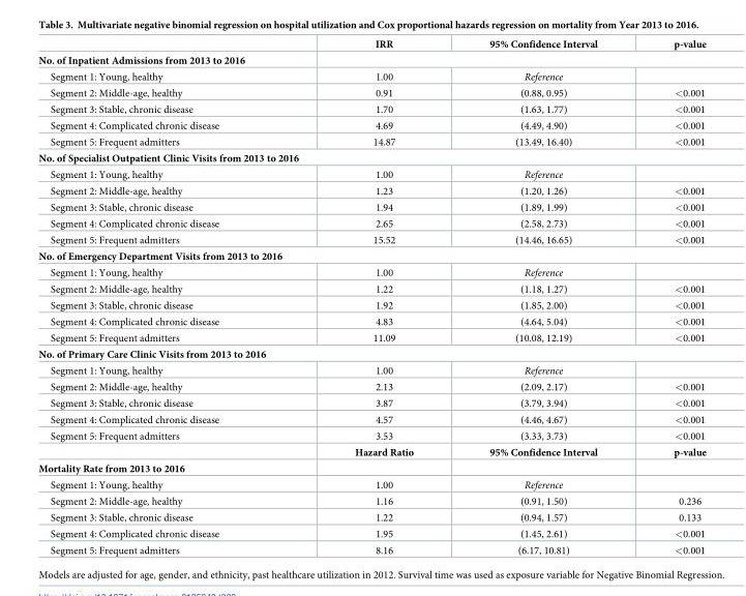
<table><thead><tr><td></td><td>IRR</td><td>95% Confidence Interval</td><td>p-value</td></tr></thead><tbody><tr><td colspan="4">No. of Inpatient Admissions from 2013 to 2016</td></tr><tr><td>Segment 1: Young, healthy</td><td>1.00</td><td>Reference</td><td></td></tr><tr><td>Segment 2: Middle-age, healthy</td><td>0.91</td><td>(0.88, 0.95)</td><td>&lt;0.001</td></tr><tr><td>Segment 3: Stable, chronic disease</td><td>1.70</td><td>(1.63, 1.77)</td><td>&lt;0.001</td></tr><tr><td>Segment 4: Complicated chronic disease</td><td>4.69</td><td>(4.49, 4.90)</td><td>&lt;0.001</td></tr><tr><td>Segment 5: Frequent admitters</td><td>14.87</td><td>(13.49, 16.40)</td><td>&lt;0.001</td></tr><tr><td colspan="4">No. of Specialist Outpatient Clinic Visits from 2013 to 2016</td></tr><tr><td>Segment 1: Young, healthy</td><td>1.00</td><td>Reference</td><td></td></tr><tr><td>Segment 2: Middle-age, healthy</td><td>1.23</td><td>(1.20, 1.26)</td><td>&lt;0.001</td></tr><tr><td>Segment 3: Stable, chronic disease</td><td>1.94</td><td>(1.89, 1.99)</td><td>&lt;0.001</td></tr><tr><td>Segment 4: Complicated chronic disease</td><td>2.65</td><td>(2.58, 2.73)</td><td>&lt;0.001</td></tr><tr><td>Segment 5: Frequent admitters</td><td>15.52</td><td>(14.46, 16.65)</td><td>&lt;0.001</td></tr><tr><td colspan="4">No. of Emergency Department Visits from 2013 to 2016</td></tr><tr><td>Segment 1: Young, healthy</td><td>1.00</td><td>Reference</td><td></td></tr><tr><td>Segment 2: Middle-age, healthy</td><td>1.22</td><td>(1.18, 1.27)</td><td>&lt;0.001</td></tr><tr><td>Segment 3: Stable, chronic disease</td><td>1.92</td><td>(1.85, 2.00)</td><td>&lt;0.001</td></tr><tr><td>Segment 4: Complicated chronic disease</td><td>4.83</td><td>(4.64, 5.04)</td><td>&lt;0.001</td></tr><tr><td>Segment 5: Frequent admitters</td><td>11.09</td><td>(10.08, 12.19)</td><td>&lt;0.001</td></tr><tr><td colspan="4">No. of Primary Care Clinic Visits from 2013 to 2016</td></tr><tr><td>Segment 1: Young, healthy</td><td>1.00</td><td>Reference</td><td></td></tr><tr><td>Segment 2: Middle-age, healthy</td><td>2.13</td><td>(2.09, 2.17)</td><td>&lt;0.001</td></tr><tr><td>Segment 3: Stable, chronic disease</td><td>3.87</td><td>(3.79, 3.94)</td><td>&lt;0.001</td></tr><tr><td>Segment 4: Complicated chronic disease</td><td>4.57</td><td>(4.46, 4.67)</td><td>&lt;0.001</td></tr><tr><td rowspan="2">Segment 5: Frequent admitters</td><td>3.53</td><td>(3.33, 3.73)</td><td>&lt;0.001</td></tr><tr><td>Hazard Ratio</td><td>95% Confidence Interval</td><td>p-value</td></tr><tr><td colspan="4">Mortality Rate from 2013 to 2016</td></tr><tr><td>Segment 1: Young, healthy</td><td>1.00</td><td>Reference</td><td></td></tr><tr><td>Segment 2: Middle-age, healthy</td><td>1.16</td><td>(0.91, 1.50)</td><td>0.236</td></tr><tr><td>Segment 3: Stable, chronic disease</td><td>1.22</td><td>(0.94, 1.57)</td><td>0.133</td></tr><tr><td>Segment 4: Complicated chronic disease</td><td>1.95</td><td>(1.45, 2.61)</td><td>&lt;0.001</td></tr><tr><td>Segment 5: Frequent admitters</td><td>8.16</td><td>(6.17, 10.81)</td><td>&lt;0.001</td></tr></tbody></table>